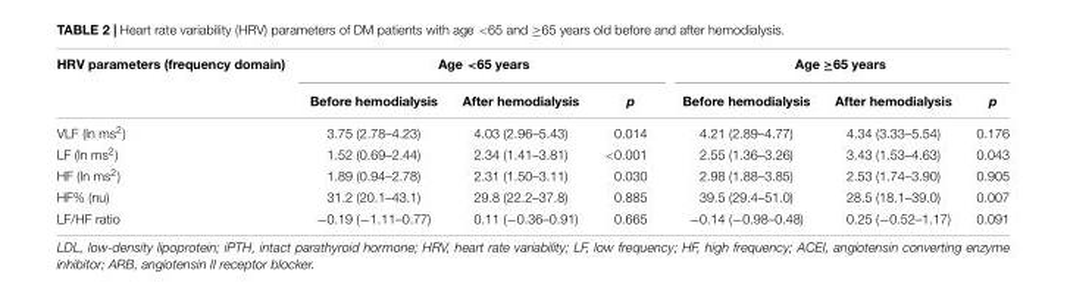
<table><thead><tr><td rowspan="2">HRV parameters (frequency domain)</td><td colspan="3">Age &lt;65 years</td><td colspan="3">Age ≥65 years</td></tr><tr><td>Before hemodialysis</td><td>After hemodialysis</td><td>p</td><td>Before hemodialysis</td><td>After hemodialysis</td><td>p</td></tr></thead><tbody><tr><td>VLF (ln ms<sup>2</sup>)</td><td>3.75 (2.78–4.23)</td><td>4.03 (2.96–5.43)</td><td>0.014</td><td>4.21 (2.89–4.77)</td><td>4.34 (3.33–5.54)</td><td>0.176</td></tr><tr><td>LF (ln ms<sup>2</sup>)</td><td>1.52 (0.69–2.44)</td><td>2.34 (1.41–3.81)</td><td>&lt;0.001</td><td>2.55 (1.36–3.26)</td><td>3.43 (1.53–4.63)</td><td>0.043</td></tr><tr><td>HF (ln ms<sup>2</sup>)</td><td>1.89 (0.94–2.78)</td><td>2.31 (1.50–3.11)</td><td>0.030</td><td>2.98 (1.88–3.85)</td><td>2.53 (1.74–3.90)</td><td>0.905</td></tr><tr><td>HF% (nu)</td><td>31.2 (20.1–43.1)</td><td>29.8 (22.2–37.8)</td><td>0.885</td><td>39.5 (29.4–51.0)</td><td>28.5 (18.1–39.0)</td><td>0.007</td></tr><tr><td>LF/HF ratio</td><td>−0.19 (−1.11–0.77)</td><td>0.11 (−0.36–0.91)</td><td>0.665</td><td>−0.14 (−0.98–0.48)</td><td>0.25 (−0.52–1.17)</td><td>0.091</td></tr></tbody></table>